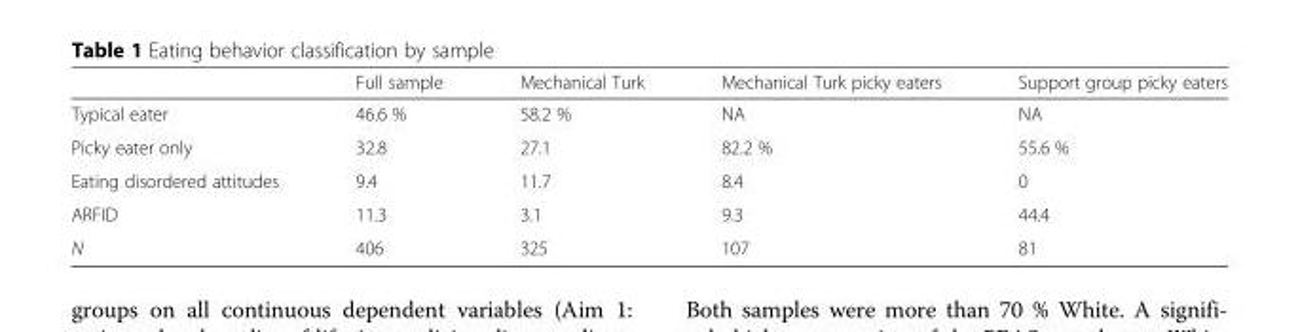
<table><thead><tr><td></td><td>Full sample</td><td>Mechanical Turk</td><td>Mechanical Turk picky eaters</td><td>Support group picky eaters</td></tr></thead><tbody><tr><td>Typical eater</td><td>46.6 %</td><td>58.2 %</td><td>NA</td><td>NA</td></tr><tr><td>Picky eater only</td><td>32.8</td><td>27.1</td><td>82.2 %</td><td>55.6 %</td></tr><tr><td>Eating disordered attitudes</td><td>9.4</td><td>11.7</td><td>8.4</td><td>0</td></tr><tr><td>ARFID</td><td>11.3</td><td>3.1</td><td>9.3</td><td>44.4</td></tr><tr><td>N</td><td>406</td><td>325</td><td>107</td><td>81</td></tr></tbody></table>